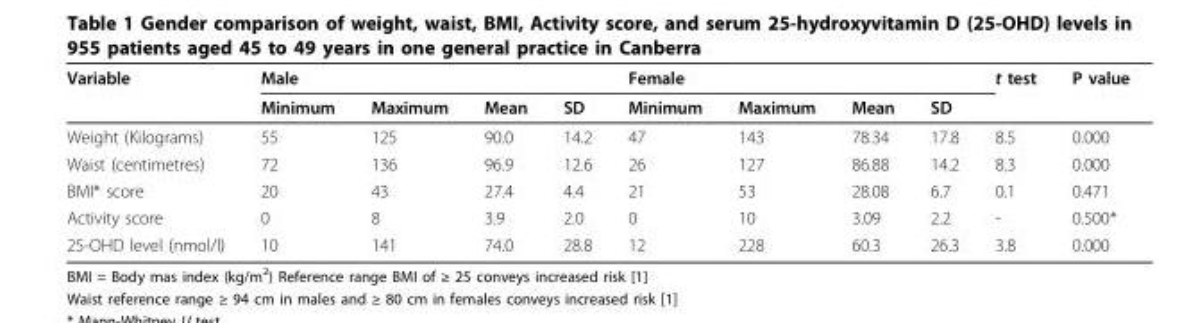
<table><thead><tr><td rowspan="2">Variable</td><td colspan="4">Male</td><td colspan="4">Female</td><td rowspan="2">t test</td><td rowspan="2">P value</td></tr><tr><td>Minimum</td><td>Maximum</td><td>Mean</td><td>SD</td><td>Minimum</td><td>Maximum</td><td>Mean</td><td>SD</td></tr></thead><tbody><tr><td>Weight (Kilograms)</td><td>55</td><td>125</td><td>90.0</td><td>14.2</td><td>47</td><td>143</td><td>78.34</td><td>17.8</td><td>8.5</td><td>0.000</td></tr><tr><td>Waist (centimetres)</td><td>72</td><td>136</td><td>96.9</td><td>12.6</td><td>26</td><td>127</td><td>86.88</td><td>14.2</td><td>8.3</td><td>0.000</td></tr><tr><td>BMI* score</td><td>20</td><td>43</td><td>27.4</td><td>4.4</td><td>21</td><td>53</td><td>28.08</td><td>6.7</td><td>0.1</td><td>0.471</td></tr><tr><td>Activity score</td><td>0</td><td>8</td><td>3.9</td><td>2.0</td><td>0</td><td>10</td><td>3.09</td><td>2.2</td><td>-</td><td>0.500*</td></tr><tr><td>25-OHD level (nmol/l)</td><td>10</td><td>141</td><td>74.0</td><td>28.8</td><td>12</td><td>228</td><td>60.3</td><td>26.3</td><td>3.8</td><td>0.000</td></tr></tbody></table>